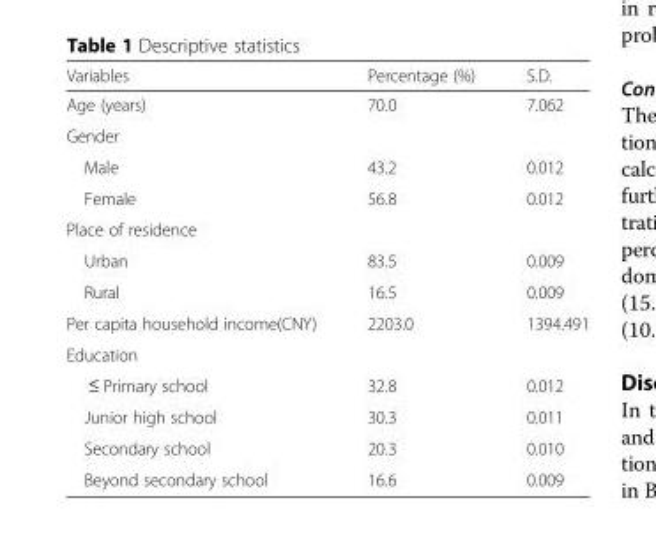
<table><thead><tr><td>Variables</td><td>Percentage (%)</td><td>S.D.</td></tr></thead><tbody><tr><td>Age (years)</td><td>70.0</td><td>7.062</td></tr><tr><td colspan="3">Gender</td></tr><tr><td>Male</td><td>43.2</td><td>0.012</td></tr><tr><td>Female</td><td>56.8</td><td>0.012</td></tr><tr><td colspan="3">Place of residence</td></tr><tr><td>Urban</td><td>83.5</td><td>0.009</td></tr><tr><td>Rural</td><td>16.5</td><td>0.009</td></tr><tr><td>Per capita household income(CNY)</td><td>2203.0</td><td>1394.491</td></tr><tr><td colspan="3">Education</td></tr><tr><td>≤ Primary school</td><td>32.8</td><td>0.012</td></tr><tr><td>Junior high school</td><td>30.3</td><td>0.011</td></tr><tr><td>Secondary school</td><td>20.3</td><td>0.010</td></tr><tr><td>Beyond secondary school</td><td>16.6</td><td>0.009</td></tr></tbody></table>